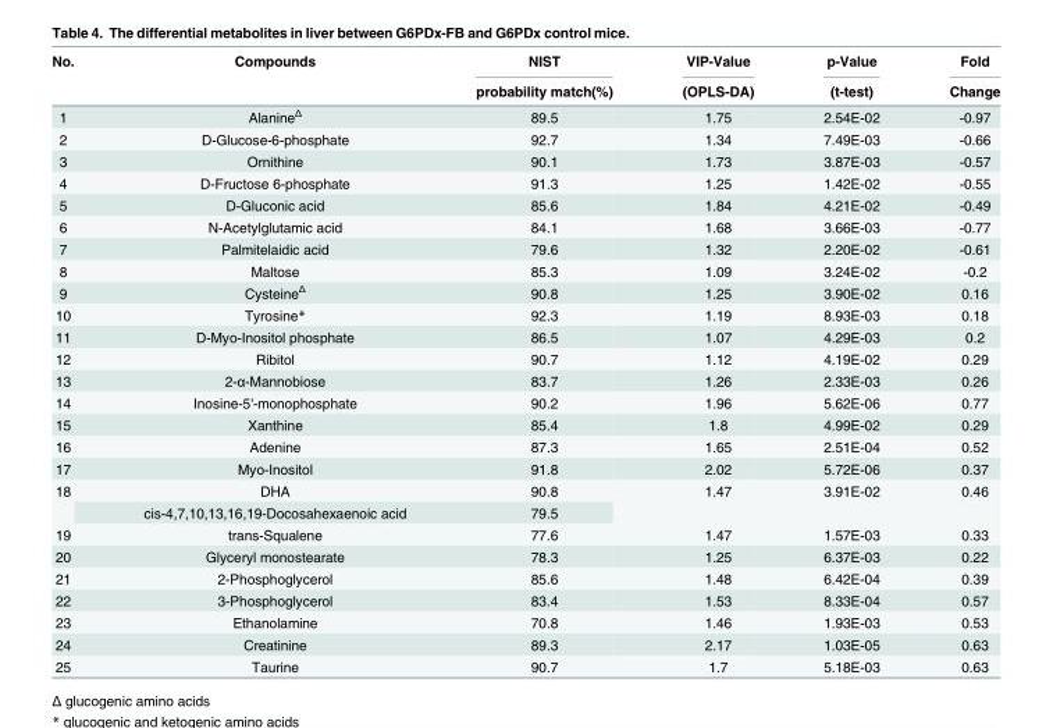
<table><thead><tr><td rowspan="2">No.</td><td rowspan="2">Compounds</td><td rowspan="2">NIST probability match(%)</td><td rowspan="2">VIP-Value (OPLS-DA)</td><td rowspan="2">p-Value (t-test)</td><td rowspan="2">Fold Change</td></tr><tr></tr></thead><tbody><tr><td>1</td><td>Alanine<sup>Δ</sup></td><td>89.5</td><td>1.75</td><td>2.54E-02</td><td>-0.97</td></tr><tr><td>2</td><td>D-Glucose-6-phosphate</td><td>92.7</td><td>1.34</td><td>7.49E-03</td><td>-0.66</td></tr><tr><td>3</td><td>Ornithine</td><td>90.1</td><td>1.73</td><td>3.87E-03</td><td>-0.57</td></tr><tr><td>4</td><td>D-Fructose 6-phosphate</td><td>91.3</td><td>1.25</td><td>1.42E-02</td><td>-0.55</td></tr><tr><td>5</td><td>D-Gluconic acid</td><td>85.6</td><td>1.84</td><td>4.21E-02</td><td>-0.49</td></tr><tr><td>6</td><td>N-Acetylglutamic acid</td><td>84.1</td><td>1.68</td><td>3.66E-03</td><td>-0.77</td></tr><tr><td>7</td><td>Palmitelaidic acid</td><td>79.6</td><td>1.32</td><td>2.20E-02</td><td>-0.61</td></tr><tr><td>8</td><td>Maltose</td><td>85.3</td><td>1.09</td><td>3.24E-02</td><td>-0.2</td></tr><tr><td>9</td><td>Cysteine<sup>Δ</sup></td><td>90.8</td><td>1.25</td><td>3.90E-02</td><td>0.16</td></tr><tr><td>10</td><td>Tyrosine*</td><td>92.3</td><td>1.19</td><td>8.93E-03</td><td>0.18</td></tr><tr><td>11</td><td>D-Myo-Inositol phosphate</td><td>86.5</td><td>1.07</td><td>4.29E-03</td><td>0.2</td></tr><tr><td>12</td><td>Ribitol</td><td>90.7</td><td>1.12</td><td>4.19E-02</td><td>0.29</td></tr><tr><td>13</td><td>2-α-Mannobiose</td><td>83.7</td><td>1.26</td><td>2.33E-03</td><td>0.26</td></tr><tr><td>14</td><td>Inosine-5&#x27;-monophosphate</td><td>90.2</td><td>1.96</td><td>5.62E-06</td><td>0.77</td></tr><tr><td>15</td><td>Xanthine</td><td>85.4</td><td>1.8</td><td>4.99E-02</td><td>0.29</td></tr><tr><td>16</td><td>Adenine</td><td>87.3</td><td>1.65</td><td>2.51E-04</td><td>0.52</td></tr><tr><td>17</td><td>Myo-Inositol</td><td>91.8</td><td>2.02</td><td>5.72E-06</td><td>0.37</td></tr><tr><td rowspan="2">18</td><td>DHA</td><td>90.8</td><td rowspan="2">1.47</td><td rowspan="2">3.91E-02</td><td rowspan="2">0.46</td></tr><tr><td>cis-4,7,10,13,16,19-Docosahexaenoic acid</td><td>79.5</td></tr><tr><td>19</td><td>trans-Squalene</td><td>77.6</td><td>1.47</td><td>1.57E-03</td><td>0.33</td></tr><tr><td>20</td><td>Glyceryl monostearate</td><td>78.3</td><td>1.25</td><td>6.37E-03</td><td>0.22</td></tr><tr><td>21</td><td>2-Phosphoglycerol</td><td>85.6</td><td>1.48</td><td>6.42E-04</td><td>0.39</td></tr><tr><td>22</td><td>3-Phosphoglycerol</td><td>83.4</td><td>1.53</td><td>8.33E-04</td><td>0.57</td></tr><tr><td>23</td><td>Ethanolamine</td><td>70.8</td><td>1.46</td><td>1.93E-03</td><td>0.53</td></tr><tr><td>24</td><td>Creatinine</td><td>89.3</td><td>2.17</td><td>1.03E-05</td><td>0.63</td></tr><tr><td>25</td><td>Taurine</td><td>90.7</td><td>1.7</td><td>5.18E-03</td><td>0.63</td></tr></tbody></table>